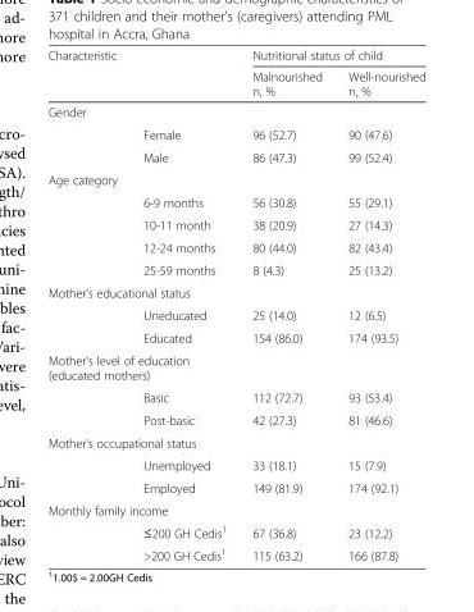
<table><thead><tr><td rowspan="2">Characteristic</td><td rowspan="2"></td><td colspan="2">Nutritional status of child</td></tr><tr><td>Malnourished n, %</td><td>Well-nourished n, %</td></tr></thead><tbody><tr><td colspan="4">Gender</td></tr><tr><td></td><td>Female</td><td>96 (52.7)</td><td>90 (47.6)</td></tr><tr><td></td><td>Male</td><td>86 (47.3)</td><td>99 (52.4)</td></tr><tr><td colspan="4">Age category</td></tr><tr><td></td><td>6-9 months</td><td>56 (30.8)</td><td>55 (29.1)</td></tr><tr><td></td><td>10-11 month</td><td>38 (20.9)</td><td>27 (14.3)</td></tr><tr><td></td><td>12-24 months</td><td>80 (44.0)</td><td>82 (43.4)</td></tr><tr><td></td><td>25-59 months</td><td>8 (4.3)</td><td>25 (13.2)</td></tr><tr><td colspan="4">Mother&#x27;s educational status</td></tr><tr><td></td><td>Uneducated</td><td>25 (14.0)</td><td>12 (6.5)</td></tr><tr><td></td><td>Educated</td><td>154 (86.0)</td><td>174 (93.5)</td></tr><tr><td colspan="4">Mother&#x27;s level of education (educated mothers)</td></tr><tr><td></td><td>Basic</td><td>112 (72.7)</td><td>93 (53.4)</td></tr><tr><td></td><td>Post-basic</td><td>42 (27.3)</td><td>81 (46.6)</td></tr><tr><td colspan="4">Mother&#x27;s occupational status</td></tr><tr><td></td><td>Unemployed</td><td>33 (18.1)</td><td>15 (7.9)</td></tr><tr><td></td><td>Employed</td><td>149 (81.9)</td><td>174 (92.1)</td></tr><tr><td colspan="4">Monthly family income</td></tr><tr><td></td><td>≤200 GH Cedis<sup>1</sup></td><td>67 (36.8)</td><td>23 (12.2)</td></tr><tr><td></td><td>&gt;200 GH Cedis<sup>1</sup></td><td>115 (63.2)</td><td>166 (87.8)</td></tr></tbody></table>